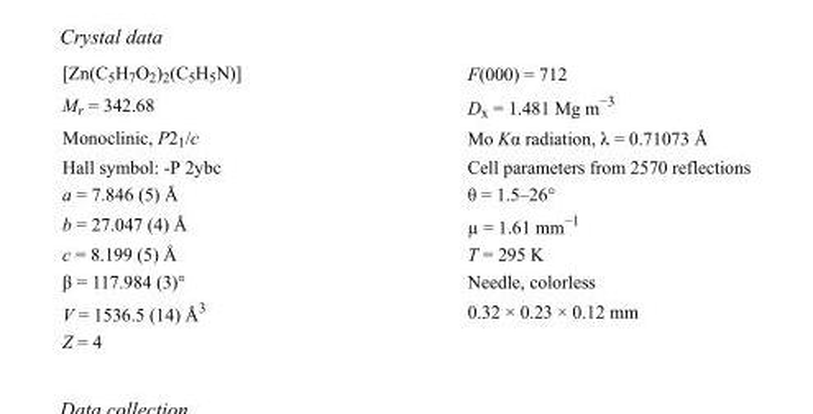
<table><tbody><tr><td>[Zn(C<sub>5</sub>H<sub>7</sub>O<sub>2</sub>)<sub>2</sub>(C<sub>5</sub>H<sub>5</sub>N)]</td><td>F(000) = 712</td></tr><tr><td>M<sub>r</sub> = 342.68</td><td>D<sub>x</sub> = 1.481 Mg m<sup>−3</sup></td></tr><tr><td>Monoclinic, P2<sub>1</sub>/c</td><td>Mo Kα radiation, λ = 0.71073 Å</td></tr><tr><td>Hall symbol: -P 2ybc</td><td>Cell parameters from 2570 reflections</td></tr><tr><td>a = 7.846 (5) Å</td><td>θ = 1.5–26°</td></tr><tr><td>b = 27.047 (4) Å</td><td>µ = 1.61 mm<sup>−1</sup></td></tr><tr><td>c = 8.199 (5) Å</td><td>T = 295 K</td></tr><tr><td>β = 117.984 (3)°</td><td>Needle, colorless</td></tr><tr><td>V = 1536.5 (14) Å<sup>3</sup></td><td>0.32 × 0.23 × 0.12 mm</td></tr><tr><td>Z = 4</td><td></td></tr></tbody></table>